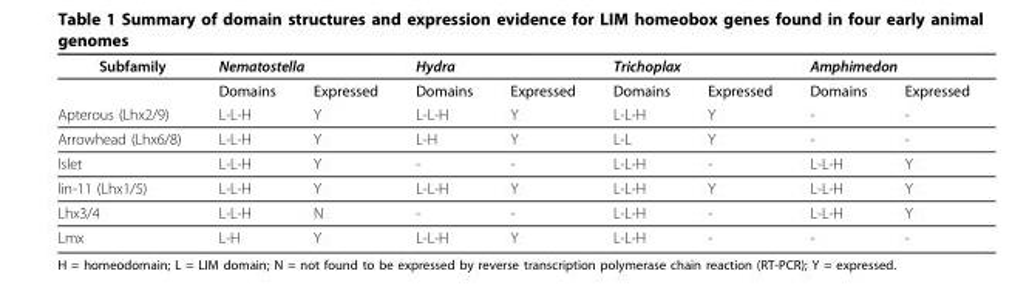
<table><thead><tr><td rowspan="2">Subfamily</td><td colspan="2">Nematostella</td><td colspan="2">Hydra</td><td colspan="2">Trichoplax</td><td colspan="2">Amphimedon</td></tr><tr><td>Domains</td><td>Expressed</td><td>Domains</td><td>Expressed</td><td>Domains</td><td>Expressed</td><td>Domains</td><td>Expressed</td></tr></thead><tbody><tr><td>Apterous (Lhx2/9)</td><td>L-L-H</td><td>Y</td><td>L-L-H</td><td>Y</td><td>L-L-H</td><td>Y</td><td>-</td><td>-</td></tr><tr><td>Arrowhead (Lhx6/8)</td><td>L-L-H</td><td>Y</td><td>L-H</td><td>Y</td><td>L-L</td><td>Y</td><td>-</td><td>-</td></tr><tr><td>Islet</td><td>L-L-H</td><td>Y</td><td>-</td><td>-</td><td>L-L-H</td><td>-</td><td>L-L-H</td><td>Y</td></tr><tr><td>lin-11 (Lhx1/5)</td><td>L-L-H</td><td>Y</td><td>L-L-H</td><td>Y</td><td>L-L-H</td><td>Y</td><td>L-L-H</td><td>Y</td></tr><tr><td>Lhx3/4</td><td>L-L-H</td><td>N</td><td>-</td><td>-</td><td>L-L-H</td><td>-</td><td>L-L-H</td><td>Y</td></tr><tr><td>Lmx</td><td>L-H</td><td>Y</td><td>L-L-H</td><td>Y</td><td>L-L-H</td><td>-</td><td>-</td><td>-</td></tr></tbody></table>